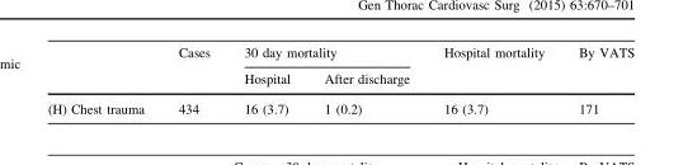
<table><thead><tr><td rowspan="2"></td><td rowspan="2">Cases</td><td colspan="2">30 day mortality</td><td rowspan="2">Hospital mortality</td><td rowspan="2">By VATS</td></tr><tr><td>Hospital</td><td>After discharge</td></tr></thead><tbody><tr><td>(H) Chest trauma</td><td>434</td><td>16 (3.7)</td><td>1 (0.2)</td><td>16 (3.7)</td><td>171</td></tr></tbody></table>